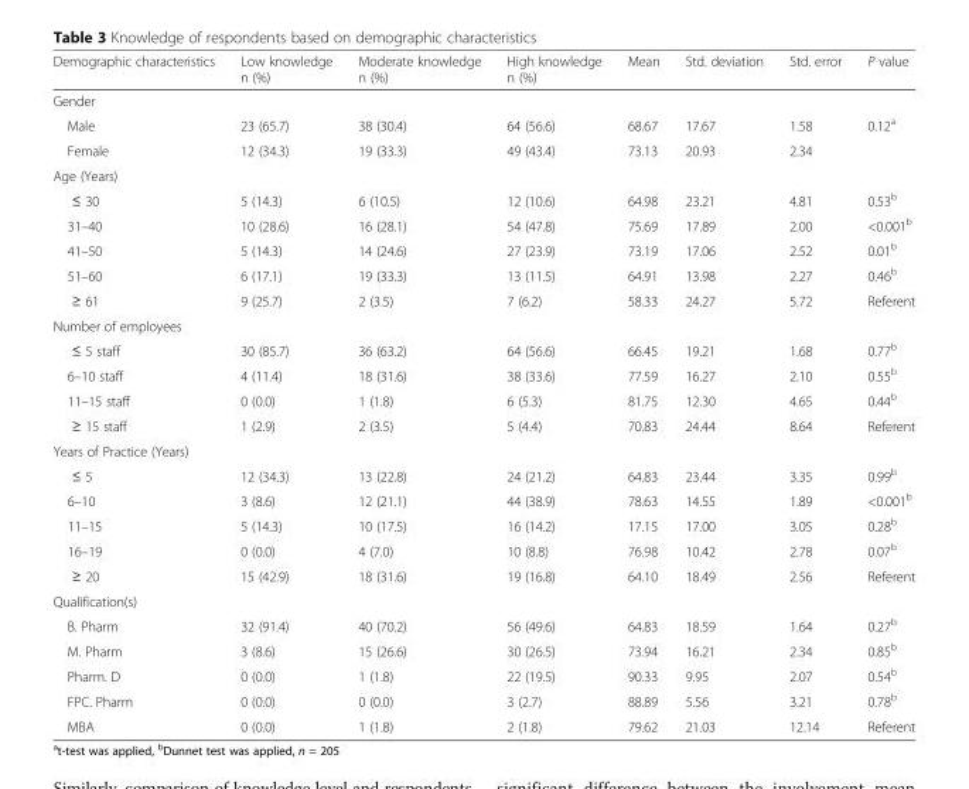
<table><thead><tr><td>Demographic characteristics</td><td>Low knowledge n (%)</td><td>Moderate knowledge n (%)</td><td>High knowledge n (%)</td><td>Mean</td><td>Std. deviation</td><td>Std. error</td><td>P value</td></tr></thead><tbody><tr><td colspan="8">Gender</td></tr><tr><td>Male</td><td>23 (65.7)</td><td>38 (30.4)</td><td>64 (56.6)</td><td>68.67</td><td>17.67</td><td>1.58</td><td>0.12<sup>a</sup></td></tr><tr><td>Female</td><td>12 (34.3)</td><td>19 (33.3)</td><td>49 (43.4)</td><td>73.13</td><td>20.93</td><td>2.34</td><td></td></tr><tr><td colspan="8">Age (Years)</td></tr><tr><td>≤ 30</td><td>5 (14.3)</td><td>6 (10.5)</td><td>12 (10.6)</td><td>64.98</td><td>23.21</td><td>4.81</td><td>0.53<sup>b</sup></td></tr><tr><td>31–40</td><td>10 (28.6)</td><td>16 (28.1)</td><td>54 (47.8)</td><td>75.69</td><td>17.89</td><td>2.00</td><td>&lt;0.001<sup>b</sup></td></tr><tr><td>41–50</td><td>5 (14.3)</td><td>14 (24.6)</td><td>27 (23.9)</td><td>73.19</td><td>17.06</td><td>2.52</td><td>0.01<sup>b</sup></td></tr><tr><td>51–60</td><td>6 (17.1)</td><td>19 (33.3)</td><td>13 (11.5)</td><td>64.91</td><td>13.98</td><td>2.27</td><td>0.46<sup>b</sup></td></tr><tr><td>≥ 61</td><td>9 (25.7)</td><td>2 (3.5)</td><td>7 (6.2)</td><td>58.33</td><td>24.27</td><td>5.72</td><td>Referent</td></tr><tr><td colspan="8">Number of employees</td></tr><tr><td>≤ 5 staff</td><td>30 (85.7)</td><td>36 (63.2)</td><td>64 (56.6)</td><td>66.45</td><td>19.21</td><td>1.68</td><td>0.77<sup>b</sup></td></tr><tr><td>6–10 staff</td><td>4 (11.4)</td><td>18 (31.6)</td><td>38 (33.6)</td><td>77.59</td><td>16.27</td><td>2.10</td><td>0.55<sup>b</sup></td></tr><tr><td>11–15 staff</td><td>0 (0.0)</td><td>1 (1.8)</td><td>6 (5.3)</td><td>81.75</td><td>12.30</td><td>4.65</td><td>0.44<sup>b</sup></td></tr><tr><td>≥ 15 staff</td><td>1 (2.9)</td><td>2 (3.5)</td><td>5 (4.4)</td><td>70.83</td><td>24.44</td><td>8.64</td><td>Referent</td></tr><tr><td colspan="8">Years of Practice (Years)</td></tr><tr><td>≤ 5</td><td>12 (34.3)</td><td>13 (22.8)</td><td>24 (21.2)</td><td>64.83</td><td>23.44</td><td>3.35</td><td>0.99<sup>b</sup></td></tr><tr><td>6–10</td><td>3 (8.6)</td><td>12 (21.1)</td><td>44 (38.9)</td><td>78.63</td><td>14.55</td><td>1.89</td><td>&lt;0.001<sup>b</sup></td></tr><tr><td>11–15</td><td>5 (14.3)</td><td>10 (17.5)</td><td>16 (14.2)</td><td>17.15</td><td>17.00</td><td>3.05</td><td>0.28<sup>b</sup></td></tr><tr><td>16–19</td><td>0 (0.0)</td><td>4 (7.0)</td><td>10 (8.8)</td><td>76.98</td><td>10.42</td><td>2.78</td><td>0.07<sup>b</sup></td></tr><tr><td>≥ 20</td><td>15 (42.9)</td><td>18 (31.6)</td><td>19 (16.8)</td><td>64.10</td><td>18.49</td><td>2.56</td><td>Referent</td></tr><tr><td colspan="8">Qualification(s)</td></tr><tr><td>B. Pharm</td><td>32 (91.4)</td><td>40 (70.2)</td><td>56 (49.6)</td><td>64.83</td><td>18.59</td><td>1.64</td><td>0.27<sup>b</sup></td></tr><tr><td>M. Pharm</td><td>3 (8.6)</td><td>15 (26.6)</td><td>30 (26.5)</td><td>73.94</td><td>16.21</td><td>2.34</td><td>0.85<sup>b</sup></td></tr><tr><td>Pharm. D</td><td>0 (0.0)</td><td>1 (1.8)</td><td>22 (19.5)</td><td>90.33</td><td>9.95</td><td>2.07</td><td>0.54<sup>b</sup></td></tr><tr><td>FPC. Pharm</td><td>0 (0.0)</td><td>0 (0.0)</td><td>3 (2.7)</td><td>88.89</td><td>5.56</td><td>3.21</td><td>0.78<sup>b</sup></td></tr><tr><td>MBA</td><td>0 (0.0)</td><td>1 (1.8)</td><td>2 (1.8)</td><td>79.62</td><td>21.03</td><td>12.14</td><td>Referent</td></tr></tbody></table>